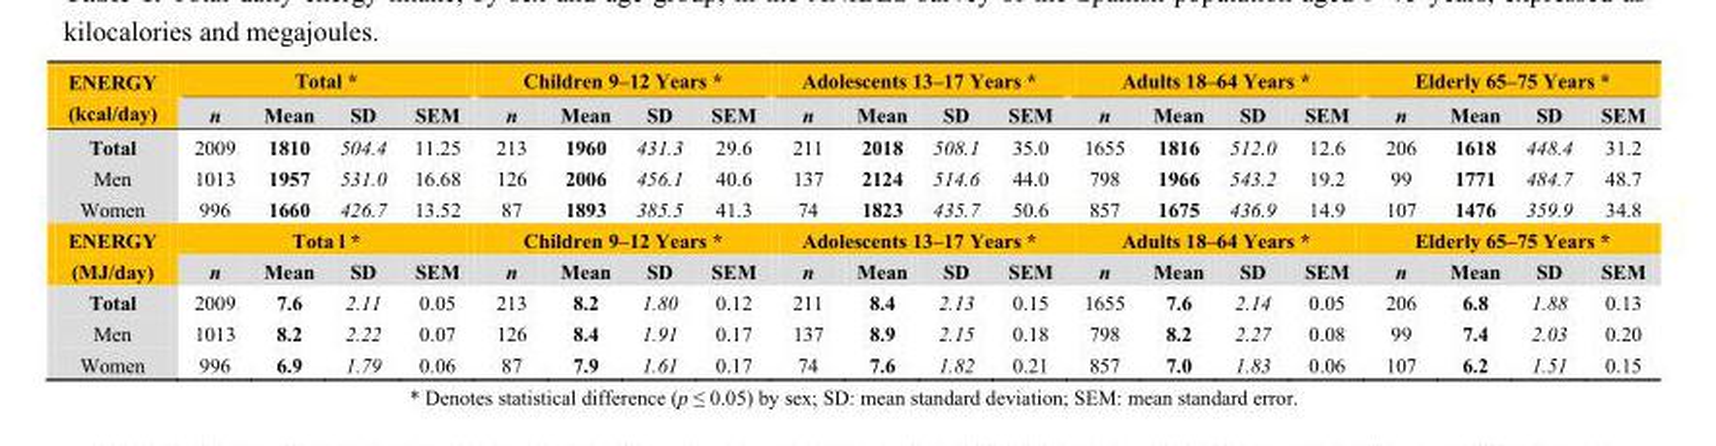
<table><thead><tr><td rowspan="2">ENERGY (kcal/day)</td><td colspan="4">Total *</td><td colspan="4">Children 9–12 Years *</td><td colspan="4">Adolescents 13–17 Years *</td><td colspan="4">Adults 18–64 Years *</td><td colspan="4">Elderly 65–75 Years *</td></tr><tr><td>n</td><td>Mean</td><td>SD</td><td>SEM</td><td>n</td><td>Mean</td><td>SD</td><td>SEM</td><td>n</td><td>Mean</td><td>SD</td><td>SEM</td><td>n</td><td>Mean</td><td>SD</td><td>SEM</td><td>n</td><td>Mean</td><td>SD</td><td>SEM</td></tr></thead><tbody><tr><td>Total</td><td>2009</td><td>1810</td><td>504.4</td><td>11.25</td><td>213</td><td>1960</td><td>431.3</td><td>29.6</td><td>211</td><td>2018</td><td>508.1</td><td>35.0</td><td>1655</td><td>1816</td><td>512.0</td><td>12.6</td><td>206</td><td>1618</td><td>448.4</td><td>31.2</td></tr><tr><td>Men</td><td>1013</td><td>1957</td><td>531.0</td><td>16.68</td><td>126</td><td>2006</td><td>456.1</td><td>40.6</td><td>137</td><td>2124</td><td>514.6</td><td>44.0</td><td>798</td><td>1966</td><td>543.2</td><td>19.2</td><td>99</td><td>1771</td><td>484.7</td><td>48.7</td></tr><tr><td>Women</td><td>996</td><td>1660</td><td>426.7</td><td>13.52</td><td>87</td><td>1893</td><td>385.5</td><td>41.3</td><td>74</td><td>1823</td><td>435.7</td><td>50.6</td><td>857</td><td>1675</td><td>436.9</td><td>14.9</td><td>107</td><td>1476</td><td>359.9</td><td>34.8</td></tr><tr><td rowspan="2">ENERGY (MJ/day)</td><td colspan="4">Tota l *</td><td colspan="4">Children 9–12 Years *</td><td colspan="4">Adolescents 13–17 Years *</td><td colspan="4">Adults 18–64 Years *</td><td colspan="4">Elderly 65–75 Years *</td></tr><tr><td>n</td><td>Mean</td><td>SD</td><td>SEM</td><td>n</td><td>Mean</td><td>SD</td><td>SEM</td><td>n</td><td>Mean</td><td>SD</td><td>SEM</td><td>n</td><td>Mean</td><td>SD</td><td>SEM</td><td>n</td><td>Mean</td><td>SD</td><td>SEM</td></tr><tr><td>Total</td><td>2009</td><td>7.6</td><td>2.11</td><td>0.05</td><td>213</td><td>8.2</td><td>1.80</td><td>0.12</td><td>211</td><td>8.4</td><td>2.13</td><td>0.15</td><td>1655</td><td>7.6</td><td>2.14</td><td>0.05</td><td>206</td><td>6.8</td><td>1.88</td><td>0.13</td></tr><tr><td>Men</td><td>1013</td><td>8.2</td><td>2.22</td><td>0.07</td><td>126</td><td>8.4</td><td>1.91</td><td>0.17</td><td>137</td><td>8.9</td><td>2.15</td><td>0.18</td><td>798</td><td>8.2</td><td>2.27</td><td>0.08</td><td>99</td><td>7.4</td><td>2.03</td><td>0.20</td></tr><tr><td>Women</td><td>996</td><td>6.9</td><td>1.79</td><td>0.06</td><td>87</td><td>7.9</td><td>1.61</td><td>0.17</td><td>74</td><td>7.6</td><td>1.82</td><td>0.21</td><td>857</td><td>7.0</td><td>1.83</td><td>0.06</td><td>107</td><td>6.2</td><td>1.51</td><td>0.15</td></tr></tbody></table>